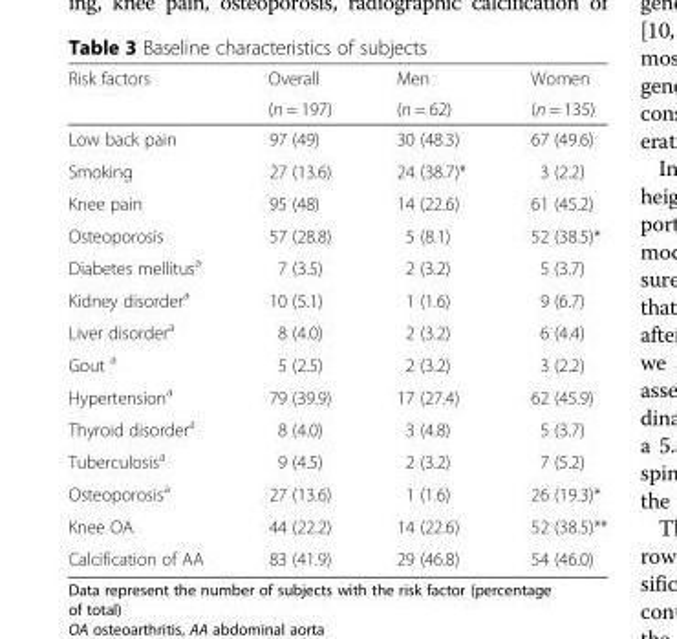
<table><thead><tr><td rowspan="2">Risk factors</td><td rowspan="2">Overall (n = 197)</td><td rowspan="2">Men (n = 62)</td><td rowspan="2">Women (n = 135)</td></tr><tr></tr></thead><tbody><tr><td>Low back pain</td><td>97 (49)</td><td>30 (48.3)</td><td>67 (49.6)</td></tr><tr><td>Smoking</td><td>27 (13.6)</td><td>24 (38.7)*</td><td>3 (2.2)</td></tr><tr><td>Knee pain</td><td>95 (48)</td><td>14 (22.6)</td><td>61 (45.2)</td></tr><tr><td>Osteoporosis</td><td>57 (28.8)</td><td>5 (8.1)</td><td>52 (38.5)*</td></tr><tr><td>Diabetes mellitus<sup>a</sup></td><td>7 (3.5)</td><td>2 (3.2)</td><td>5 (3.7)</td></tr><tr><td>Kidney disorder<sup>a</sup></td><td>10 (5.1)</td><td>1 (1.6)</td><td>9 (6.7)</td></tr><tr><td>Liver disorder<sup>a</sup></td><td>8 (4.0)</td><td>2 (3.2)</td><td>6 (4.4)</td></tr><tr><td>Gout <sup>a</sup></td><td>5 (2.5)</td><td>2 (3.2)</td><td>3 (2.2)</td></tr><tr><td>Hypertension<sup>a</sup></td><td>79 (39.9)</td><td>17 (27.4)</td><td>62 (45.9)</td></tr><tr><td>Thyroid disorder<sup>a</sup></td><td>8 (4.0)</td><td>3 (4.8)</td><td>5 (3.7)</td></tr><tr><td>Tuberculosis<sup>a</sup></td><td>9 (4.5)</td><td>2 (3.2)</td><td>7 (5.2)</td></tr><tr><td>Osteoporosis<sup>a</sup></td><td>27 (13.6)</td><td>1 (1.6)</td><td>26 (19.3)*</td></tr><tr><td>Knee OA</td><td>44 (22.2)</td><td>14 (22.6)</td><td>52 (38.5)**</td></tr><tr><td>Calcification of AA</td><td>83 (41.9)</td><td>29 (46.8)</td><td>54 (46.0)</td></tr></tbody></table>